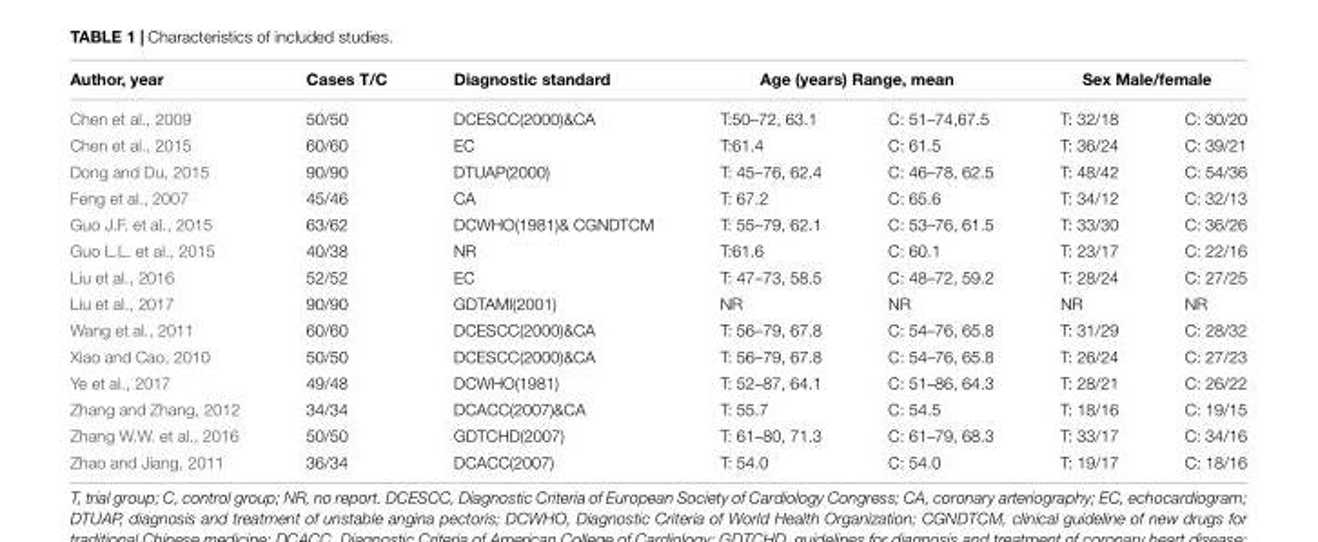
<table><thead><tr><td rowspan="2">Author, year Chen et al., 2009</td><td rowspan="2">Cases T/C 50/50</td><td rowspan="2">Diagnostic standard DCESCC(2000)&amp;CA</td><td colspan="2">Age (years) Range, mean</td><td colspan="2">Sex Male/female</td></tr><tr><td>T:50–72, 63.1</td><td>C: 51–74,67.5</td><td>T: 32/18</td><td>C: 30/20</td></tr></thead><tbody><tr><td>Chen et al., 2015</td><td>60/60</td><td>EC</td><td>T:61.4</td><td>C: 61.5</td><td>T: 36/24</td><td>C: 39/21</td></tr><tr><td>Dong and Du, 2015</td><td>90/90</td><td>DTUAP(2000)</td><td>T: 45–76, 62.4</td><td>C: 46–78, 62.5</td><td>T: 48/42</td><td>C: 54/36</td></tr><tr><td>Feng et al., 2007</td><td>45/46</td><td>CA</td><td>T: 67.2</td><td>C: 65.6</td><td>T: 34/12</td><td>C: 32/13</td></tr><tr><td>Guo J.F. et al., 2015</td><td>63/62</td><td>DCWHO(1981)&amp; CGNDTCM</td><td>T: 55–79, 62.1</td><td>C: 53–76, 61.5</td><td>T: 33/30</td><td>C: 36/26</td></tr><tr><td>Guo L.L. et al., 2015</td><td>40/38</td><td>NR</td><td>T:61.6</td><td>C: 60.1</td><td>T: 23/17</td><td>C: 22/16</td></tr><tr><td>Liu et al., 2016</td><td>52/52</td><td>EC</td><td>T: 47–73, 58.5</td><td>C: 48–72, 59.2</td><td>T: 28/24</td><td>C: 27/25</td></tr><tr><td>Liu et al., 2017</td><td>90/90</td><td>GDTAMI(2001)</td><td>NR</td><td>NR</td><td>NR</td><td>NR</td></tr><tr><td>Wang et al., 2011</td><td>60/60</td><td>DCESCC(2000)&amp;CA</td><td>T: 56–79, 67.8</td><td>C: 54–76, 65.8</td><td>T: 31/29</td><td>C: 28/32</td></tr><tr><td>Xiao and Cao, 2010</td><td>50/50</td><td>DCESCC(2000)&amp;CA</td><td>T: 56–79, 67.8</td><td>C: 54–76, 65.8</td><td>T: 26/24</td><td>C: 27/23</td></tr><tr><td>Ye et al., 2017</td><td>49/48</td><td>DCWHO(1981)</td><td>T: 52–87, 64.1</td><td>C: 51–86, 64.3</td><td>T: 28/21</td><td>C: 26/22</td></tr><tr><td>Zhang and Zhang, 2012</td><td>34/34</td><td>DCACC(2007)&amp;CA</td><td>T: 55.7</td><td>C: 54.5</td><td>T: 18/16</td><td>C: 19/15</td></tr><tr><td>Zhang W.W. et al., 2016</td><td>50/50</td><td>GDTCHD(2007)</td><td>T: 61–80, 71.3</td><td>C: 61–79, 68.3</td><td>T: 33/17</td><td>C: 34/16</td></tr><tr><td>Zhao and Jiang, 2011</td><td>36/34</td><td>DCACC(2007)</td><td>T: 54.0</td><td>C: 54.0</td><td>T: 19/17</td><td>C: 18/16</td></tr></tbody></table>